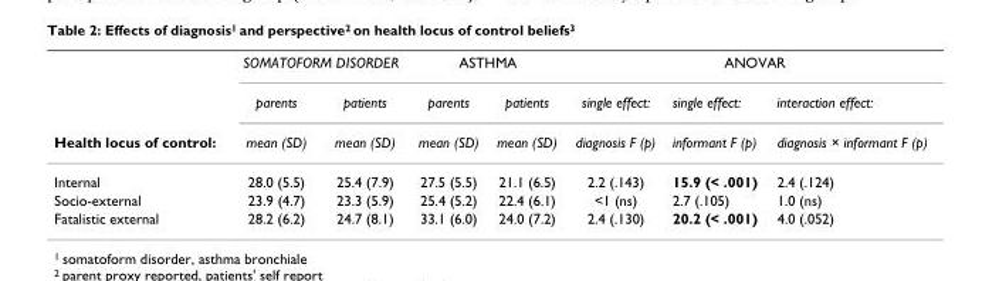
<table><thead><tr><td rowspan="3">Health locus of control:</td><td colspan="2">SOMATOFORM DISORDER</td><td colspan="2">ASTHMA</td><td colspan="3">ANOVAR</td></tr><tr><td rowspan="2">parents mean (SD)</td><td rowspan="2">patients mean (SD)</td><td rowspan="2">parents mean (SD)</td><td rowspan="2">patients mean (SD)</td><td rowspan="2">single effect: diagnosis F (p)</td><td rowspan="2">single effect: informant F (p)</td><td rowspan="2">interaction effect: diagnosis × informant F (p)</td></tr><tr></tr></thead><tbody><tr><td>Internal</td><td>28.0 (5.5)</td><td>25.4 (7.9)</td><td>27.5 (5.5)</td><td>21.1 (6.5)</td><td>2.2 (.143)</td><td>15.9 (&lt; .001)</td><td>2.4 (.124)</td></tr><tr><td>Socio-external</td><td>23.9 (4.7)</td><td>23.3 (5.9)</td><td>25.4 (5.2)</td><td>22.4 (6.1)</td><td>&lt;1 (ns)</td><td>2.7 (.105)</td><td>1.0 (ns)</td></tr><tr><td>Fatalistic external</td><td>28.2 (6.2)</td><td>24.7 (8.1)</td><td>33.1 (6.0)</td><td>24.0 (7.2)</td><td>2.4 (.130)</td><td>20.2 (&lt; .001)</td><td>4.0 (.052)</td></tr></tbody></table>